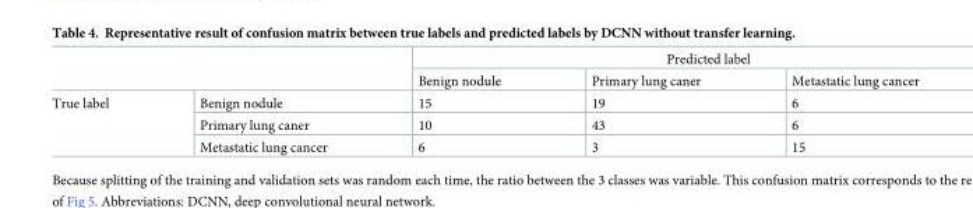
<table><thead><tr><td rowspan="2"></td><td rowspan="2"></td><td colspan="3">Predicted label</td></tr><tr><td>Benign nodule</td><td>Primary lung caner</td><td>Metastatic lung cancer</td></tr></thead><tbody><tr><td rowspan="3">True label</td><td>Benign nodule</td><td>15</td><td>19</td><td>6</td></tr><tr><td>Primary lung caner</td><td>10</td><td>43</td><td>6</td></tr><tr><td>Metastatic lung cancer</td><td>6</td><td>3</td><td>15</td></tr></tbody></table>